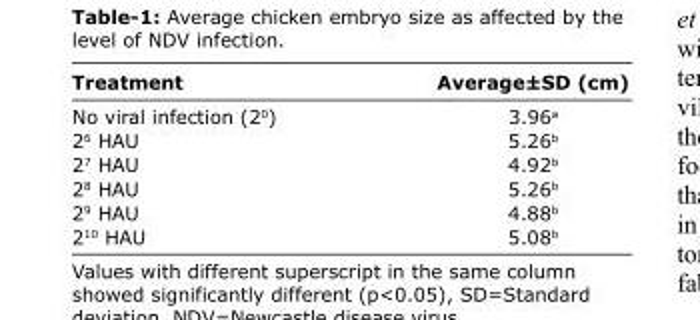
<table><thead><tr><td>Treatment</td><td>Average±SD (cm)</td></tr></thead><tbody><tr><td>No viral infection (2<sup>0</sup>)</td><td>3.96<sup>a</sup></td></tr><tr><td>2<sup>6</sup> HAU</td><td>5.26<sup>b</sup></td></tr><tr><td>2<sup>7</sup> HAU</td><td>4.92<sup>b</sup></td></tr><tr><td>2<sup>8</sup> HAU</td><td>5.26<sup>b</sup></td></tr><tr><td>2<sup>9</sup> HAU</td><td>4.88<sup>b</sup></td></tr><tr><td>2<sup>10</sup> HAU</td><td>5.08<sup>b</sup></td></tr></tbody></table>